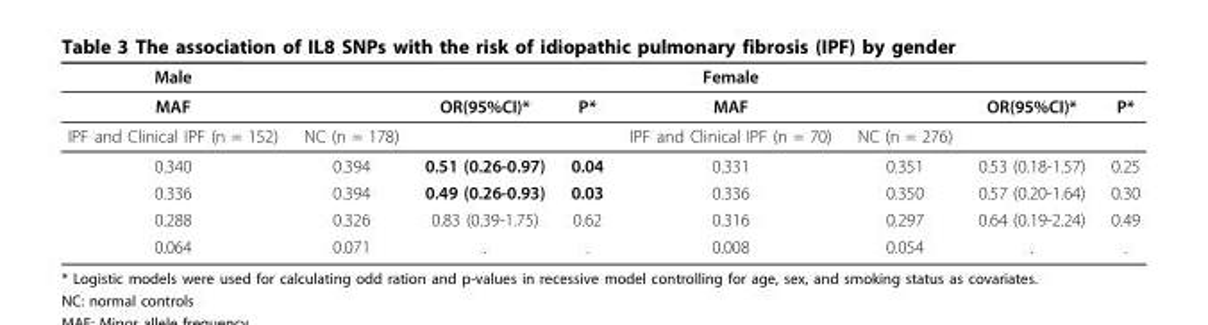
<table><tbody><tr><td>Male</td><td></td><td></td><td></td><td>Female</td><td></td><td></td><td></td></tr><tr><td>MAF</td><td></td><td>OR(95%CI)*</td><td>P*</td><td>MAF</td><td></td><td>OR(95%CI)*</td><td>P*</td></tr><tr><td>IPF and Clinical IPF (n = 152)</td><td>NC (n = 178)</td><td></td><td></td><td>IPF and Clinical IPF (n = 70)</td><td>NC (n = 276)</td><td></td><td></td></tr><tr><td>0.340</td><td>0.394</td><td>0.51 (0.26-0.97)</td><td>0.04</td><td>0.331</td><td>0.351</td><td>0.53 (0.18-1.57)</td><td>0.25</td></tr><tr><td>0.336</td><td>0.394</td><td>0.49 (0.26-0.93)</td><td>0.03</td><td>0.336</td><td>0.350</td><td>0.57 (0.20-1.64)</td><td>0.30</td></tr><tr><td>0.288</td><td>0.326</td><td>0.83 (0.39-1.75)</td><td>0.62</td><td>0.316</td><td>0.297</td><td>0.64 (0.19-2.24)</td><td>0.49</td></tr><tr><td>0.064</td><td>0.071</td><td>.</td><td>.</td><td>0.008</td><td>0.054</td><td>.</td><td>.</td></tr></tbody></table>